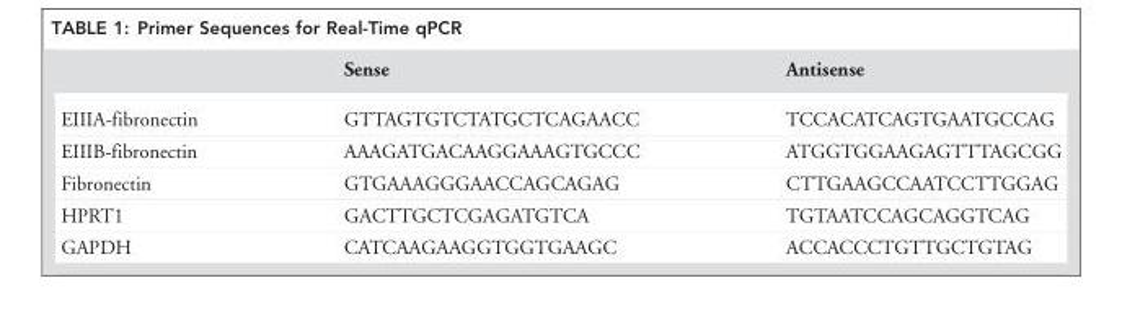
<table><thead><tr><td></td><td>Sense</td><td>Antisense</td></tr></thead><tbody><tr><td>EIIIA-fibronectin</td><td>GTTAGTGTCTATGCTCAGAACC</td><td>TCCACATCAGTGAATGCCAG</td></tr><tr><td>EIIIB-fibronectin</td><td>AAAGATGACAAGGAAAGTGCCC</td><td>ATGGTGGAAGAGTTTAGCGG</td></tr><tr><td>Fibronectin</td><td>GTGAAAGGGAACCAGCAGAG</td><td>CTTGAAGCCAATCCTTGGAG</td></tr><tr><td>HPRT1</td><td>GACTTGCTCGAGATGTCA</td><td>TGTAATCCAGCAGGTCAG</td></tr><tr><td>GAPDH</td><td>CATCAAGAAGGTGGTGAAGC</td><td>ACCACCCTGTTGCTGTAG</td></tr></tbody></table>